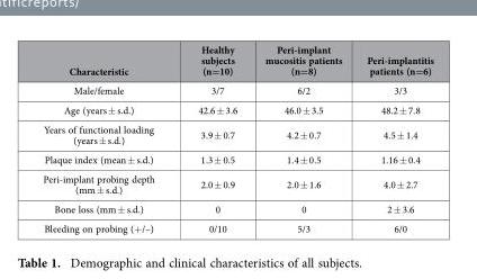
<table><thead><tr><td>Characteristic</td><td>Healthy subjects (n=10)</td><td>Peri-implant mucositis patients (n=8)</td><td>Peri-implantitis patients (n=6)</td></tr></thead><tbody><tr><td>Male/female</td><td>3/7</td><td>6/2</td><td>3/3</td></tr><tr><td>Age (years ± s.d.)</td><td>42.6 ± 3.6</td><td>46.0 ± 3.5</td><td>48.2 ± 7.8</td></tr><tr><td>Years of functional loading (years ± s.d.)</td><td>3.9 ± 0.7</td><td>4.2 ± 0.7</td><td>4.5 ± 1.4</td></tr><tr><td>Plaque index (mean ± s.d.)</td><td>1.3 ± 0.5</td><td>1.4 ± 0.5</td><td>1.16 ± 0.4</td></tr><tr><td>Peri-implant probing depth (mm ± s.d.)</td><td>2.0 ± 0.9</td><td>2.0 ± 1.6</td><td>4.0 ± 2.7</td></tr><tr><td>Bone loss (mm ± s.d.)</td><td>0</td><td>0</td><td>2 ± 3.6</td></tr><tr><td>Bleeding on probing (+/–)</td><td>0/10</td><td>5/3</td><td>6/0</td></tr></tbody></table>